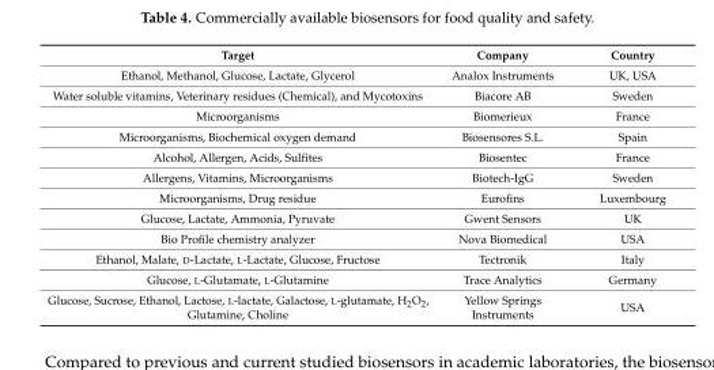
<table><thead><tr><td>Target</td><td>Company</td><td>Country</td></tr></thead><tbody><tr><td>Ethanol, Methanol, Glucose, Lactate, Glycerol</td><td>Analox Instruments</td><td>UK, USA</td></tr><tr><td>Water soluble vitamins, Veterinary residues (Chemical), and Mycotoxins</td><td>Biacore AB</td><td>Sweden</td></tr><tr><td>Microorganisms</td><td>Biomerieux</td><td>France</td></tr><tr><td>Microorganisms, Biochemical oxygen demand</td><td>Biosensores S.L.</td><td>Spain</td></tr><tr><td>Alcohol, Allergen, Acids, Sulfites</td><td>Biosentec</td><td>France</td></tr><tr><td>Allergens, Vitamins, Microorganisms</td><td>Biotech-IgG</td><td>Sweden</td></tr><tr><td>Microorganisms, Drug residue</td><td>Eurofins</td><td>Luxembourg</td></tr><tr><td>Glucose, Lactate, Ammonia, Pyruvate</td><td>Gwent Sensors</td><td>UK</td></tr><tr><td>Bio Profile chemistry analyzer</td><td>Nova Biomedical</td><td>USA</td></tr><tr><td>Ethanol, Malate, D-Lactate, L-Lactate, Glucose, Fructose</td><td>Tectronik</td><td>Italy</td></tr><tr><td>Glucose, L-Glutamate, L-Glutamine</td><td>Trace Analytics</td><td>Germany</td></tr><tr><td>Glucose, Sucrose, Ethanol, Lactose, L-lactate, Galactose, L-glutamate, H<sub>2</sub>O<sub>2</sub>, Glutamine, Choline</td><td>Yellow Springs Instruments</td><td>USA</td></tr></tbody></table>